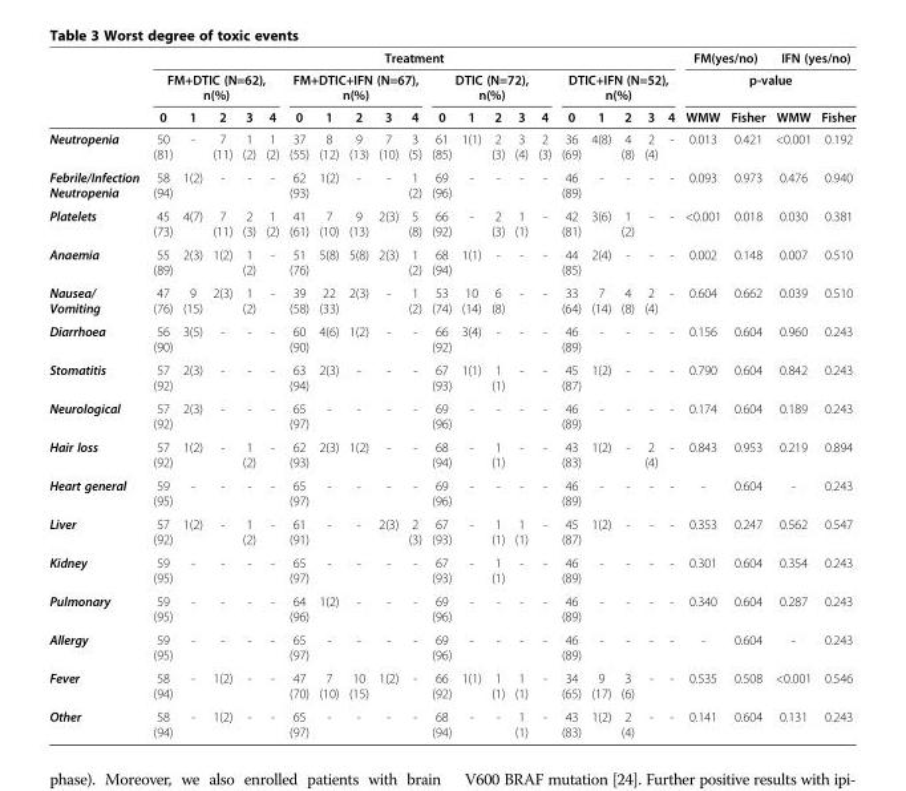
<table><thead><tr><td rowspan="3"></td><td colspan="20">Treatment</td><td colspan="2">FM(yes/no)</td><td colspan="2">IFN (yes/no)</td></tr><tr><td colspan="5">FM+DTIC (N=62), n(%)</td><td colspan="5">FM+DTIC+IFN (N=67), n(%)</td><td colspan="5">DTIC (N=72), n(%)</td><td colspan="5">DTIC+IFN (N=52), n(%)</td><td colspan="4">p-value</td></tr><tr><td>0</td><td>1</td><td>2</td><td>3</td><td>4</td><td>0</td><td>1</td><td>2</td><td>3</td><td>4</td><td>0</td><td>1</td><td>2</td><td>3</td><td>4</td><td>0</td><td>1</td><td>2</td><td>3</td><td>4</td><td>WMW</td><td>Fisher</td><td>WMW</td><td>Fisher</td></tr></thead><tbody><tr><td>Neutropenia</td><td>50 (81)</td><td>-</td><td>7 (11)</td><td>1 (2)</td><td>1 (2)</td><td>37 (55)</td><td>8 (12)</td><td>9 (13)</td><td>7 (10)</td><td>3 (5)</td><td>61 (85)</td><td>1(1)</td><td>2 (3)</td><td>3 (4)</td><td>2 (3)</td><td>36 (69)</td><td>4(8)</td><td>4 (8)</td><td>2 (4)</td><td>-</td><td>0.013</td><td>0.421</td><td>&lt;0.001</td><td>0.192</td></tr><tr><td>Febrile/Infection Neutropenia</td><td>58 (94)</td><td>1(2)</td><td>-</td><td>-</td><td>-</td><td>62 (93)</td><td>1(2)</td><td>-</td><td>-</td><td>1 (2)</td><td>69 (96)</td><td>-</td><td>-</td><td>-</td><td>-</td><td>46 (89)</td><td>-</td><td>-</td><td>-</td><td>-</td><td>0.093</td><td>0.973</td><td>0.476</td><td>0.940</td></tr><tr><td>Platelets</td><td>45 (73)</td><td>4(7)</td><td>7 (11)</td><td>2 (3)</td><td>1 (2)</td><td>41 (61)</td><td>7 (10)</td><td>9 (13)</td><td>2(3)</td><td>5 (8)</td><td>66 (92)</td><td>-</td><td>2 (3)</td><td>1 (1)</td><td>-</td><td>42 (81)</td><td>3(6)</td><td>1 (2)</td><td>-</td><td>-</td><td>&lt;0.001</td><td>0.018</td><td>0.030</td><td>0.381</td></tr><tr><td>Anaemia</td><td>55 (89)</td><td>2(3)</td><td>1(2)</td><td>1 (2)</td><td>-</td><td>51 (76)</td><td>5(8)</td><td>5(8)</td><td>2(3)</td><td>1 (2)</td><td>68 (94)</td><td>1(1)</td><td>-</td><td>-</td><td>-</td><td>44 (85)</td><td>2(4)</td><td>-</td><td>-</td><td>-</td><td>0.002</td><td>0.148</td><td>0.007</td><td>0.510</td></tr><tr><td>Nausea/ Vomiting</td><td>47 (76)</td><td>9 (15)</td><td>2(3)</td><td>1 (2)</td><td>-</td><td>39 (58)</td><td>22 (33)</td><td>2(3)</td><td>-</td><td>1 (2)</td><td>53 (74)</td><td>10 (14)</td><td>6 (8)</td><td>-</td><td>-</td><td>33 (64)</td><td>7 (14)</td><td>4 (8)</td><td>2 (4)</td><td>-</td><td>0.604</td><td>0.662</td><td>0.039</td><td>0.510</td></tr><tr><td>Diarrhoea</td><td>56 (90)</td><td>3(5)</td><td>-</td><td>-</td><td>-</td><td>60 (90)</td><td>4(6)</td><td>1(2)</td><td>-</td><td>-</td><td>66 (92)</td><td>3(4)</td><td>-</td><td>-</td><td>-</td><td>46 (89)</td><td>-</td><td>-</td><td>-</td><td>-</td><td>0.156</td><td>0.604</td><td>0.960</td><td>0.243</td></tr><tr><td>Stomatitis</td><td>57 (92)</td><td>2(3)</td><td>-</td><td>-</td><td>-</td><td>63 (94)</td><td>2(3)</td><td>-</td><td>-</td><td>-</td><td>67 (93)</td><td>1(1)</td><td>1 (1)</td><td>-</td><td>-</td><td>45 (87)</td><td>1(2)</td><td>-</td><td>-</td><td>-</td><td>0.790</td><td>0.604</td><td>0.842</td><td>0.243</td></tr><tr><td>Neurological</td><td>57 (92)</td><td>2(3)</td><td>-</td><td>-</td><td>-</td><td>65 (97)</td><td>-</td><td>-</td><td>-</td><td>-</td><td>69 (96)</td><td>-</td><td>-</td><td>-</td><td>-</td><td>46 (89)</td><td>-</td><td>-</td><td>-</td><td>-</td><td>0.174</td><td>0.604</td><td>0.189</td><td>0.243</td></tr><tr><td>Hair loss</td><td>57 (92)</td><td>1(2)</td><td>-</td><td>1 (2)</td><td>-</td><td>62 (93)</td><td>2(3)</td><td>1(2)</td><td>-</td><td>-</td><td>68 (94)</td><td>-</td><td>1 (1)</td><td>-</td><td>-</td><td>43 (83)</td><td>1(2)</td><td>-</td><td>2 (4)</td><td>-</td><td>0.843</td><td>0.953</td><td>0.219</td><td>0.894</td></tr><tr><td>Heart general</td><td>59 (95)</td><td>-</td><td>-</td><td>-</td><td>-</td><td>65 (97)</td><td>-</td><td>-</td><td>-</td><td>-</td><td>69 (96)</td><td>-</td><td>-</td><td>-</td><td>-</td><td>46 (89)</td><td>-</td><td>-</td><td>-</td><td>-</td><td>-</td><td>0.604</td><td>-</td><td>0.243</td></tr><tr><td>Liver</td><td>57 (92)</td><td>1(2)</td><td>-</td><td>1 (2)</td><td>-</td><td>61 (91)</td><td>-</td><td>-</td><td>2(3)</td><td>2 (3)</td><td>67 (93)</td><td>-</td><td>1 (1)</td><td>1 (1)</td><td>-</td><td>45 (87)</td><td>1(2)</td><td>-</td><td>-</td><td>-</td><td>0.353</td><td>0.247</td><td>0.562</td><td>0.547</td></tr><tr><td>Kidney</td><td>59 (95)</td><td>-</td><td>-</td><td>-</td><td>-</td><td>65 (97)</td><td>-</td><td>-</td><td>-</td><td>-</td><td>67 (93)</td><td>-</td><td>1 (1)</td><td>-</td><td>-</td><td>46 (89)</td><td>-</td><td>-</td><td>-</td><td>-</td><td>0.301</td><td>0.604</td><td>0.354</td><td>0.243</td></tr><tr><td>Pulmonary</td><td>59 (95)</td><td>-</td><td>-</td><td>-</td><td>-</td><td>64 (96)</td><td>1(2)</td><td>-</td><td>-</td><td>-</td><td>69 (96)</td><td>-</td><td>-</td><td>-</td><td>-</td><td>46 (89)</td><td>-</td><td>-</td><td>-</td><td>-</td><td>0.340</td><td>0.604</td><td>0.287</td><td>0.243</td></tr><tr><td>Allergy</td><td>59 (95)</td><td>-</td><td>-</td><td>-</td><td>-</td><td>65 (97)</td><td>-</td><td>-</td><td>-</td><td>-</td><td>69 (96)</td><td>-</td><td>-</td><td>-</td><td>-</td><td>46 (89)</td><td>-</td><td>-</td><td>-</td><td>-</td><td>-</td><td>0.604</td><td>-</td><td>0.243</td></tr><tr><td>Fever</td><td>58 (94)</td><td>-</td><td>1(2)</td><td>-</td><td>-</td><td>47 (70)</td><td>7 (10)</td><td>10 (15)</td><td>1(2)</td><td>-</td><td>66 (92)</td><td>1(1)</td><td>1 (1)</td><td>1 (1)</td><td>-</td><td>34 (65)</td><td>9 (17)</td><td>3 (6)</td><td>-</td><td>-</td><td>0.535</td><td>0.508</td><td>&lt;0.001</td><td>0.546</td></tr><tr><td>Other</td><td>58 (94)</td><td>-</td><td>1(2)</td><td>-</td><td>-</td><td>65 (97)</td><td>-</td><td>-</td><td>-</td><td>-</td><td>68 (94)</td><td>-</td><td>-</td><td>1 (1)</td><td>-</td><td>43 (83)</td><td>1(2)</td><td>2 (4)</td><td>-</td><td>-</td><td>0.141</td><td>0.604</td><td>0.131</td><td>0.243</td></tr></tbody></table>